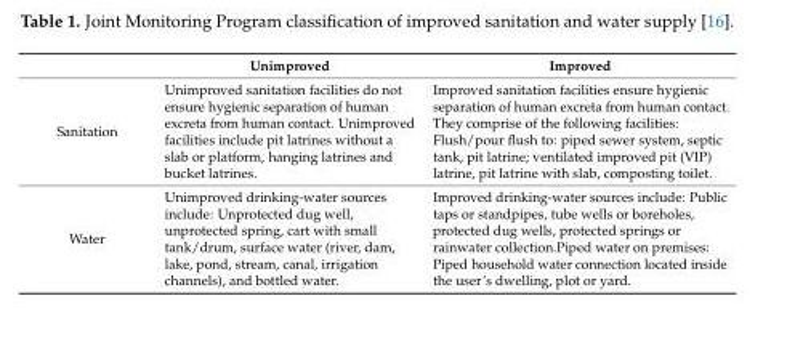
<table><thead><tr><td></td><td>Unimproved</td><td>Improved</td></tr></thead><tbody><tr><td>Sanitation</td><td>Unimproved sanitation facilities do not ensure hygienic separation of human excreta from human contact. Unimproved facilities include pit latrines without a slab or platform, hanging latrines and bucket latrines.</td><td>Improved sanitation facilities ensure hygienic separation of human excreta from human contact. They comprise of the following facilities: Flush/pour flush to: piped sewer system, septic tank, pit latrine; ventilated improved pit (VIP) latrine, pit latrine with slab, composting toilet.</td></tr><tr><td>Water</td><td>Unimproved drinking-water sources include: Unprotected dug well, unprotected spring, cart with small tank/drum, surface water (river, dam, lake, pond, stream, canal, irrigation channels), and bottled water.</td><td>Improved drinking-water sources include: Public taps or standpipes, tube wells or boreholes, protected dug wells, protected springs or rainwater collection.Piped water on premises: Piped household water connection located inside the user’s dwelling, plot or yard.</td></tr></tbody></table>